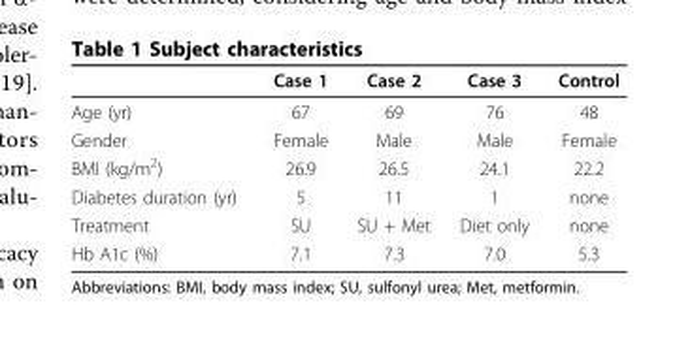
<table><thead><tr><td></td><td>Case 1</td><td>Case 2</td><td>Case 3</td><td>Control</td></tr></thead><tbody><tr><td>Age (yr)</td><td>67</td><td>69</td><td>76</td><td>48</td></tr><tr><td>Gender</td><td>Female</td><td>Male</td><td>Male</td><td>Female</td></tr><tr><td>BMI (kg/m<sup>2</sup>)</td><td>26.9</td><td>26.5</td><td>24.1</td><td>22.2</td></tr><tr><td>Diabetes duration (yr)</td><td>5</td><td>11</td><td>1</td><td>none</td></tr><tr><td>Treatment</td><td>SU</td><td>SU + Met</td><td>Diet only</td><td>none</td></tr><tr><td>Hb A1c (%)</td><td>7.1</td><td>7.3</td><td>7.0</td><td>5.3</td></tr></tbody></table>